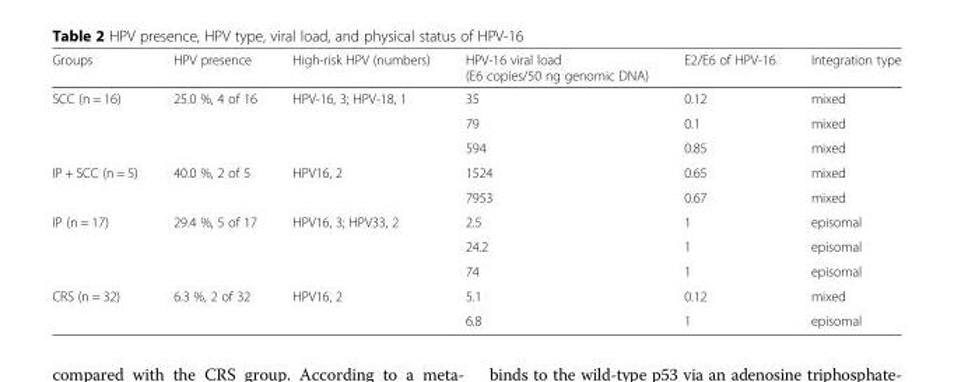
<table><thead><tr><td>Groups</td><td>HPV presence</td><td>High-risk HPV (numbers)</td><td>HPV-16 viral load (E6 copies/50 ng genomic DNA)</td><td>E2/E6 of HPV-16</td><td>Integration type</td></tr></thead><tbody><tr><td rowspan="3">SCC (n = 16)</td><td>25.0 %, 4 of 16</td><td>HPV-16, 3; HPV-18, 1</td><td>35</td><td>0.12</td><td>mixed</td></tr><tr><td></td><td></td><td>79</td><td>0.1</td><td>mixed</td></tr><tr><td></td><td></td><td>594</td><td>0.85</td><td>mixed</td></tr><tr><td rowspan="2">IP + SCC (n = 5)</td><td>40.0 %, 2 of 5</td><td>HPV16, 2</td><td>1524</td><td>0.65</td><td>mixed</td></tr><tr><td></td><td></td><td>7953</td><td>0.67</td><td>mixed</td></tr><tr><td rowspan="3">IP (n = 17)</td><td>29.4 %, 5 of 17</td><td>HPV16, 3; HPV33, 2</td><td>2.5</td><td>1</td><td>episomal</td></tr><tr><td></td><td></td><td>24.2</td><td>1</td><td>episomal</td></tr><tr><td></td><td></td><td>74</td><td>1</td><td>episomal</td></tr><tr><td rowspan="2">CRS (n = 32)</td><td>6.3 %, 2 of 32</td><td>HPV16, 2</td><td>5.1</td><td>0.12</td><td>mixed</td></tr><tr><td></td><td></td><td>6.8</td><td>1</td><td>episomal</td></tr></tbody></table>